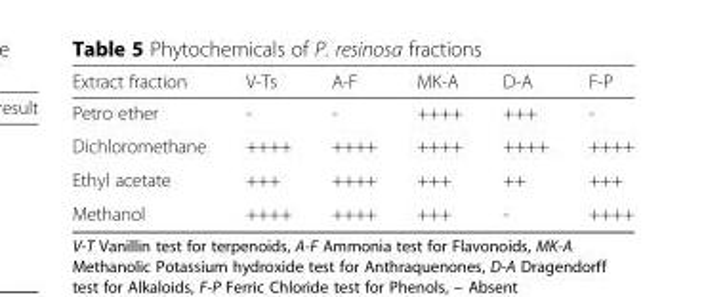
<table><thead><tr><td>Extract fraction</td><td>V-Ts</td><td>A-F</td><td>MK-A</td><td>D-A</td><td>F-P</td></tr></thead><tbody><tr><td>Petro ether</td><td>-</td><td>-</td><td>++++</td><td>+++</td><td>-</td></tr><tr><td>Dichloromethane</td><td>++++</td><td>++++</td><td>++++</td><td>++++</td><td>++++</td></tr><tr><td>Ethyl acetate</td><td>+++</td><td>++++</td><td>+++</td><td>++</td><td>+++</td></tr><tr><td>Methanol</td><td>++++</td><td>++++</td><td>+++</td><td>-</td><td>++++</td></tr></tbody></table>